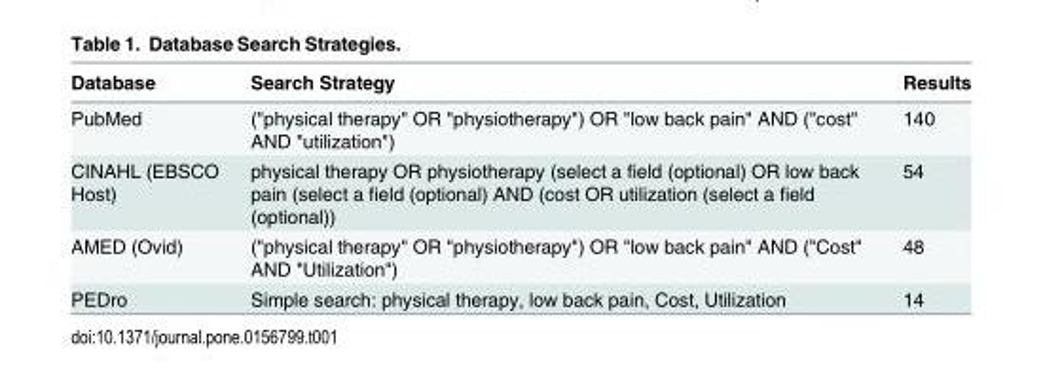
<table><thead><tr><td>Database</td><td>Search Strategy</td><td>Results</td></tr></thead><tbody><tr><td>PubMed</td><td>(&quot;physical therapy&quot; OR &quot;physiotherapy&quot;) OR &quot;low back pain&quot; AND (&quot;cost&quot; AND &quot;utilization&quot;)</td><td>140</td></tr><tr><td>CINAHL (EBSCO Host)</td><td>physical therapy OR physiotherapy (select a field (optional) OR low back pain (select a field (optional) AND (cost OR utilization (select a field (optional))</td><td>54</td></tr><tr><td>AMED (Ovid)</td><td>(&quot;physical therapy&quot; OR &quot;physiotherapy&quot;) OR &quot;low back pain&quot; AND (&quot;Cost&quot; AND &quot;Utilization&quot;)</td><td>48</td></tr><tr><td>PEDro</td><td>Simple search: physical therapy, low back pain, Cost, Utilization</td><td>14</td></tr></tbody></table>